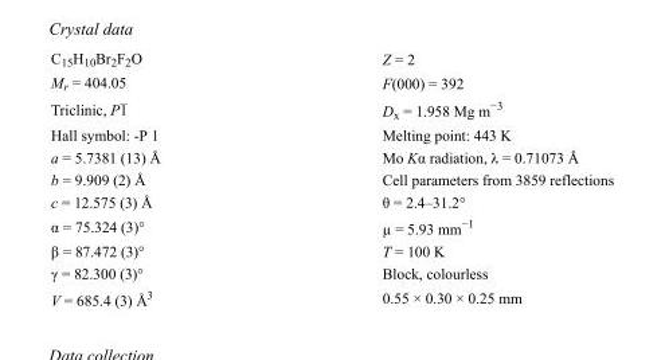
<table><tbody><tr><td>C<sub>15</sub>H<sub>10</sub>Br<sub>2</sub>F<sub>2</sub>O</td><td>Z = 2</td></tr><tr><td>M<sub>r</sub> = 404.05</td><td>F(000) = 392</td></tr><tr><td>Triclinic, P1</td><td>D<sub>x</sub> = 1.958 Mg m<sup>−3</sup></td></tr><tr><td>Hall symbol: -P 1</td><td>Melting point: 443 K</td></tr><tr><td>a = 5.7381 (13) Å</td><td>Mo Kα radiation, λ = 0.71073 Å</td></tr><tr><td>b = 9.909 (2) Å</td><td>Cell parameters from 3859 reflections</td></tr><tr><td>c = 12.575 (3) Å</td><td>θ = 2.4–31.2°</td></tr><tr><td>α = 75.324 (3)°</td><td>µ = 5.93 mm<sup>−1</sup></td></tr><tr><td>β = 87.472 (3)°</td><td>T = 100 K</td></tr><tr><td>γ = 82.300 (3)°</td><td>Block, colourless</td></tr><tr><td>V = 685.4 (3) Å<sup>3</sup></td><td>0.55 × 0.30 × 0.25 mm</td></tr></tbody></table>